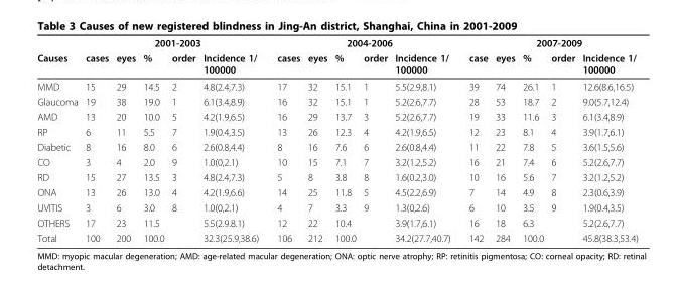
<table><thead><tr><td rowspan="2">Causes</td><td colspan="5">2001-2003</td><td colspan="5">2004-2006</td><td colspan="5">2007-2009</td></tr><tr><td>cases</td><td>eyes</td><td>%</td><td>order</td><td>Incidence 1/ 100000</td><td>cases</td><td>eyes</td><td>%</td><td>order</td><td>Incidence 1/ 100000</td><td>case</td><td>eyes</td><td>%</td><td>order</td><td>Incidence 1/ 100000</td></tr></thead><tbody><tr><td>MMD</td><td>15</td><td>29</td><td>14.5</td><td>2</td><td>4.8(2.4,7.3)</td><td>17</td><td>32</td><td>15.1</td><td>1</td><td>5.5(2.9,8.1)</td><td>39</td><td>74</td><td>26.1</td><td>1</td><td>12.6(8.6,16.5)</td></tr><tr><td>Glaucoma</td><td>19</td><td>38</td><td>19.0</td><td>1</td><td>6.1(3.4,8.9)</td><td>16</td><td>32</td><td>15.1</td><td>1</td><td>5.2(2.6,7.7)</td><td>28</td><td>53</td><td>18.7</td><td>2</td><td>9.0(5.7,12.4)</td></tr><tr><td>AMD</td><td>13</td><td>20</td><td>10.0</td><td>5</td><td>4.2(1.9,6.5)</td><td>16</td><td>29</td><td>13.7</td><td>3</td><td>5.2(2.6,7.7)</td><td>19</td><td>33</td><td>11.6</td><td>3</td><td>6.1(3.4,8.9)</td></tr><tr><td>RP</td><td>6</td><td>11</td><td>5.5</td><td>7</td><td>1.9(0.4,3.5)</td><td>13</td><td>26</td><td>12.3</td><td>4</td><td>4.2(1.9,6.5)</td><td>12</td><td>23</td><td>8.1</td><td>4</td><td>3.9(1.7,6.1)</td></tr><tr><td>Diabetic</td><td>8</td><td>16</td><td>8.0</td><td>6</td><td>2.6(0.8,4.4)</td><td>8</td><td>16</td><td>7.6</td><td>6</td><td>2.6(0.8,4.4)</td><td>11</td><td>22</td><td>7.8</td><td>5</td><td>3.6(1.5,5.6)</td></tr><tr><td>CO</td><td>3</td><td>4</td><td>2.0</td><td>9</td><td>1.0(0,2.1)</td><td>10</td><td>15</td><td>7.1</td><td>7</td><td>3.2(1.2,5.2)</td><td>16</td><td>21</td><td>7.4</td><td>6</td><td>5.2(2.6,7.7)</td></tr><tr><td>RD</td><td>15</td><td>27</td><td>13.5</td><td>3</td><td>4.8(2.4,7.3)</td><td>5</td><td>8</td><td>3.8</td><td>8</td><td>1.6(0.2,3.0)</td><td>10</td><td>16</td><td>5.6</td><td>7</td><td>3.2(1.2,5.2)</td></tr><tr><td>ONA</td><td>13</td><td>26</td><td>13.0</td><td>4</td><td>4.2(1.9,6.6)</td><td>14</td><td>25</td><td>11.8</td><td>5</td><td>4.5(2.2,6.9)</td><td>7</td><td>14</td><td>4.9</td><td>8</td><td>2.3(0.6,3.9)</td></tr><tr><td>UVITIS</td><td>3</td><td>6</td><td>3.0</td><td>8</td><td>1.0(0,2.1)</td><td>4</td><td>7</td><td>3.3</td><td>9</td><td>1.3(0,2.6)</td><td>6</td><td>10</td><td>3.5</td><td>9</td><td>1.9(0.4,3.5)</td></tr><tr><td>OTHERS</td><td>17</td><td>23</td><td>11.5</td><td></td><td>5.5(2.9.8.1)</td><td>12</td><td>22</td><td>10.4</td><td></td><td>3.9(1.7,6.1)</td><td>16</td><td>18</td><td>6.3</td><td></td><td>5.2(2.6,7.7)</td></tr><tr><td>Total</td><td>100</td><td>200</td><td>100.0</td><td></td><td>32.3(25.9,38.6)</td><td>106</td><td>212</td><td>100.0</td><td></td><td>34.2(27.7,40.7)</td><td>142</td><td>284</td><td>100.0</td><td></td><td>45.8(38.3,53.4)</td></tr></tbody></table>